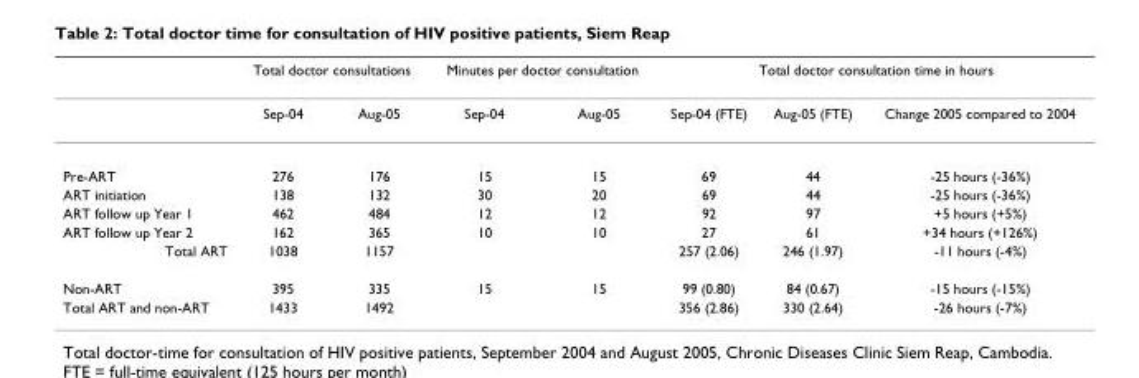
<table><thead><tr><td rowspan="2"></td><td colspan="2">Total doctor consultations</td><td colspan="2">Minutes per doctor consultation</td><td colspan="3">Total doctor consultation time in hours</td></tr><tr><td>Sep-04</td><td>Aug-05</td><td>Sep-04</td><td>Aug-05</td><td>Sep-04 (FTE)</td><td>Aug-05 (FTE)</td><td>Change 2005 compared to 2004</td></tr></thead><tbody><tr><td>Pre-ART</td><td>276</td><td>176</td><td>15</td><td>15</td><td>69</td><td>44</td><td>-25 hours (-36%)</td></tr><tr><td>ART initiation</td><td>138</td><td>132</td><td>30</td><td>20</td><td>69</td><td>44</td><td>-25 hours (-36%)</td></tr><tr><td>ART follow up Year 1</td><td>462</td><td>484</td><td>12</td><td>12</td><td>92</td><td>97</td><td>+5 hours (+5%)</td></tr><tr><td>ART follow up Year 2</td><td>162</td><td>365</td><td>10</td><td>10</td><td>27</td><td>61</td><td>+34 hours (+126%)</td></tr><tr><td>Total ART</td><td>1038</td><td>1157</td><td></td><td></td><td>257 (2.06)</td><td>246 (1.97)</td><td>-11 hours (-4%)</td></tr><tr><td>Non-ART</td><td>395</td><td>335</td><td>15</td><td>15</td><td>99 (0.80)</td><td>84 (0.67)</td><td>-15 hours (-15%)</td></tr><tr><td>Total ART and non-ART</td><td>1433</td><td>1492</td><td></td><td></td><td>356 (2.86)</td><td>330 (2.64)</td><td>-26 hours (-7%)</td></tr></tbody></table>